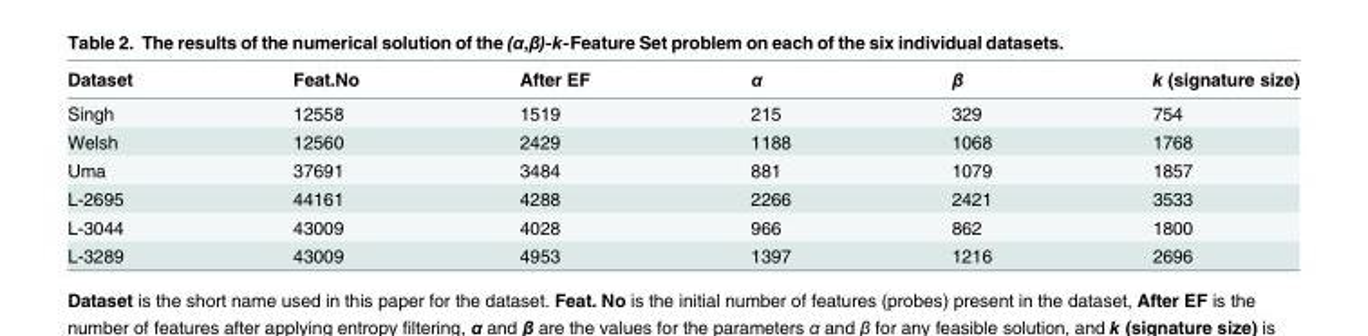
<table><thead><tr><td>Dataset</td><td>Feat.No</td><td>After EF</td><td>α</td><td>β</td><td>k (signature size)</td></tr></thead><tbody><tr><td>Singh</td><td>12558</td><td>1519</td><td>215</td><td>329</td><td>754</td></tr><tr><td>Welsh</td><td>12560</td><td>2429</td><td>1188</td><td>1068</td><td>1768</td></tr><tr><td>Uma</td><td>37691</td><td>3484</td><td>881</td><td>1079</td><td>1857</td></tr><tr><td>L-2695</td><td>44161</td><td>4288</td><td>2266</td><td>2421</td><td>3533</td></tr><tr><td>L-3044</td><td>43009</td><td>4028</td><td>966</td><td>862</td><td>1800</td></tr><tr><td>L-3289</td><td>43009</td><td>4953</td><td>1397</td><td>1216</td><td>2696</td></tr></tbody></table>